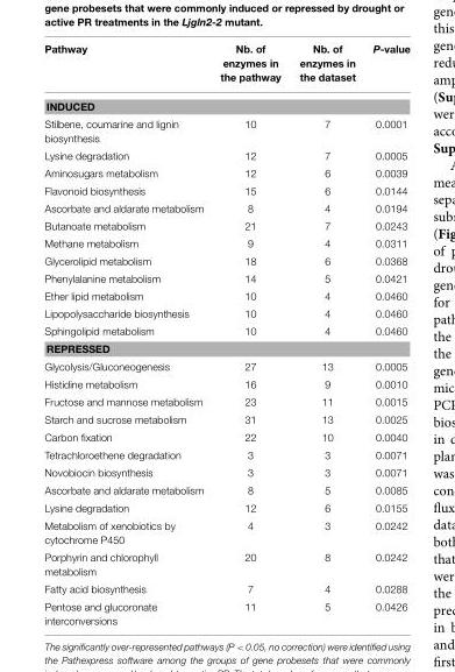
<table><thead><tr><td>Pathway</td><td>Nb. of enzymes in the pathway</td><td>Nb. of enzymes in the dataset</td><td>P-value</td></tr></thead><tbody><tr><td colspan="4">INDUCED</td></tr><tr><td>Stilbene, coumarine and lignin biosynthesis</td><td>10</td><td>7</td><td>0.0001</td></tr><tr><td>Lysine degradation</td><td>12</td><td>7</td><td>0.0005</td></tr><tr><td>Aminosugars metabolism</td><td>12</td><td>6</td><td>0.0039</td></tr><tr><td>Flavonoid biosynthesis</td><td>15</td><td>6</td><td>0.0144</td></tr><tr><td>Ascorbate and aldarate metabolism</td><td>8</td><td>4</td><td>0.0194</td></tr><tr><td>Butanoate metabolism</td><td>21</td><td>7</td><td>0.0243</td></tr><tr><td>Methane metabolism</td><td>9</td><td>4</td><td>0.0311</td></tr><tr><td>Glycerolipid metabolism</td><td>18</td><td>6</td><td>0.0368</td></tr><tr><td>Phenylalanine metabolism</td><td>14</td><td>5</td><td>0.0421</td></tr><tr><td>Ether lipid metabolism</td><td>10</td><td>4</td><td>0.0460</td></tr><tr><td>Lipopolysaccharide biosynthesis</td><td>10</td><td>4</td><td>0.0460</td></tr><tr><td>Sphingolipid metabolism</td><td>10</td><td>4</td><td>0.0460</td></tr><tr><td colspan="4">REPRESSED</td></tr><tr><td>Glycolysis/Gluconeogenesis</td><td>27</td><td>13</td><td>0.0005</td></tr><tr><td>Histidine metabolism</td><td>16</td><td>9</td><td>0.0010</td></tr><tr><td>Fructose and mannose metabolism</td><td>23</td><td>11</td><td>0.0015</td></tr><tr><td>Starch and sucrose metabolism</td><td>31</td><td>13</td><td>0.0025</td></tr><tr><td>Carbon fixation</td><td>22</td><td>10</td><td>0.0040</td></tr><tr><td>Tetrachloroethene degradation</td><td>3</td><td>3</td><td>0.0071</td></tr><tr><td>Novobiocin biosynthesis</td><td>3</td><td>3</td><td>0.0071</td></tr><tr><td>Ascorbate and aldarate metabolism</td><td>8</td><td>5</td><td>0.0085</td></tr><tr><td>Lysine degradation</td><td>12</td><td>6</td><td>0.0155</td></tr><tr><td>Metabolism of xenobiotics by cytochrome P450</td><td>4</td><td>3</td><td>0.0242</td></tr><tr><td>Porphyrin and chlorophyll metabolism</td><td>20</td><td>8</td><td>0.0242</td></tr><tr><td>Fatty acid biosynthesis</td><td>7</td><td>4</td><td>0.0288</td></tr><tr><td>Pentose and glucoronate interconversions</td><td>11</td><td>5</td><td>0.0426</td></tr></tbody></table>